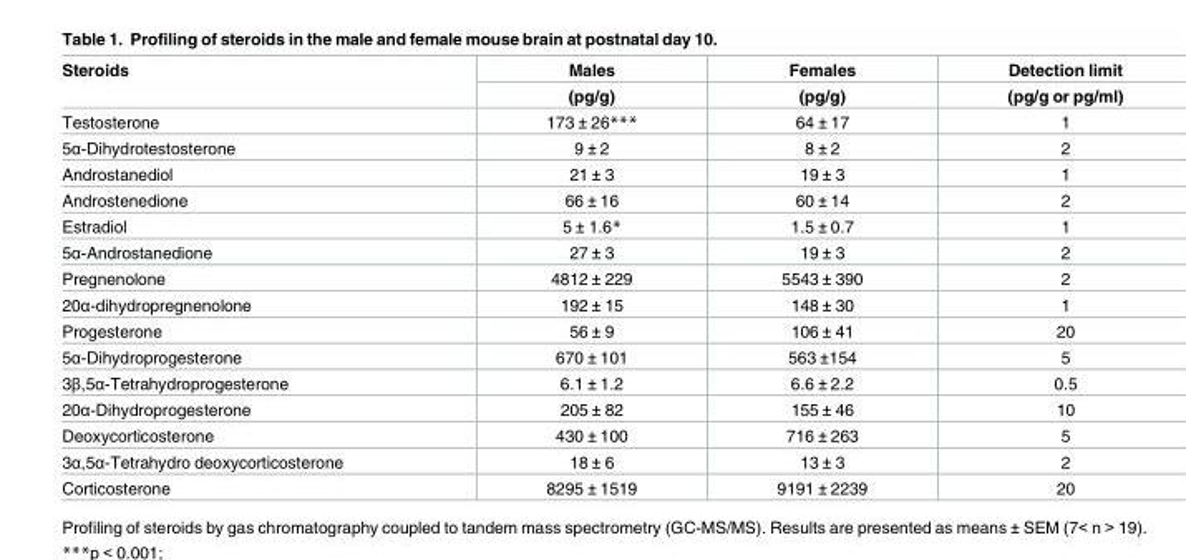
<table><thead><tr><td rowspan="2">Steroids</td><td rowspan="2">Males (pg/g)</td><td rowspan="2">Females (pg/g)</td><td rowspan="2">Detection limit (pg/g or pg/ml)</td></tr><tr></tr></thead><tbody><tr><td>Testosterone</td><td>173 ± 26***</td><td>64 ± 17</td><td>1</td></tr><tr><td>5α-Dihydrotestosterone</td><td>9 ± 2</td><td>8 ± 2</td><td>2</td></tr><tr><td>Androstanediol</td><td>21 ± 3</td><td>19 ± 3</td><td>1</td></tr><tr><td>Androstenedione</td><td>66 ± 16</td><td>60 ± 14</td><td>2</td></tr><tr><td>Estradiol</td><td>5 ± 1.6*</td><td>1.5 ± 0.7</td><td>1</td></tr><tr><td>5α-Androstanedione</td><td>27 ± 3</td><td>19 ± 3</td><td>2</td></tr><tr><td>Pregnenolone</td><td>4812 ± 229</td><td>5543 ± 390</td><td>2</td></tr><tr><td>20α-dihydropregnenolone</td><td>192 ± 15</td><td>148 ± 30</td><td>1</td></tr><tr><td>Progesterone</td><td>56 ± 9</td><td>106 ± 41</td><td>20</td></tr><tr><td>5α-Dihydroprogesterone</td><td>670 ± 101</td><td>563 ±154</td><td>5</td></tr><tr><td>3β,5α-Tetrahydroprogesterone</td><td>6.1 ± 1.2</td><td>6.6 ± 2.2</td><td>0.5</td></tr><tr><td>20α-Dihydroprogesterone</td><td>205 ± 82</td><td>155 ± 46</td><td>10</td></tr><tr><td>Deoxycorticosterone</td><td>430 ± 100</td><td>716 ± 263</td><td>5</td></tr><tr><td>3α,5α-Tetrahydro deoxycorticosterone</td><td>18 ± 6</td><td>13 ± 3</td><td>2</td></tr><tr><td>Corticosterone</td><td>8295 ± 1519</td><td>9191 ± 2239</td><td>20</td></tr></tbody></table>